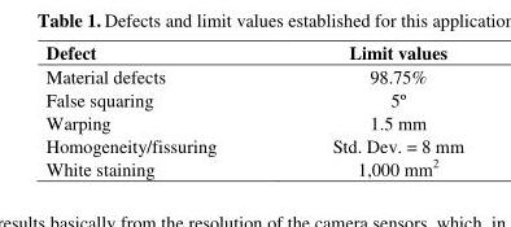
<table><thead><tr><td>Defect</td><td>Limit values</td></tr></thead><tbody><tr><td>Material defects</td><td>98.75%</td></tr><tr><td>False squaring</td><td>5º</td></tr><tr><td>Warping</td><td>1.5 mm</td></tr><tr><td>Homogeneity/fissuring</td><td>Std. Dev. = 8 mm</td></tr><tr><td>White staining</td><td>1,000 mm<sup>2</sup></td></tr></tbody></table>